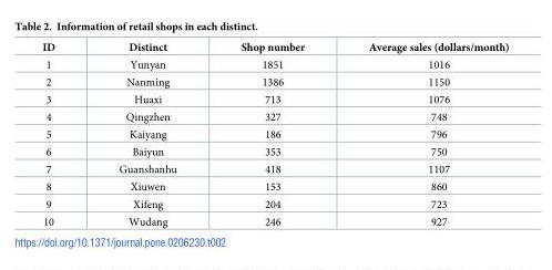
<table><thead><tr><td>ID</td><td>Distinct</td><td>Shop number</td><td>Average sales (dollars/month)</td></tr></thead><tbody><tr><td>1</td><td>Yunyan</td><td>1851</td><td>1016</td></tr><tr><td>2</td><td>Nanming</td><td>1386</td><td>1150</td></tr><tr><td>3</td><td>Huaxi</td><td>713</td><td>1076</td></tr><tr><td>4</td><td>Qingzhen</td><td>327</td><td>748</td></tr><tr><td>5</td><td>Kaiyang</td><td>186</td><td>796</td></tr><tr><td>6</td><td>Baiyun</td><td>353</td><td>750</td></tr><tr><td>7</td><td>Guanshanhu</td><td>418</td><td>1107</td></tr><tr><td>8</td><td>Xiuwen</td><td>153</td><td>860</td></tr><tr><td>9</td><td>Xifeng</td><td>204</td><td>723</td></tr><tr><td>10</td><td>Wudang</td><td>246</td><td>927</td></tr></tbody></table>